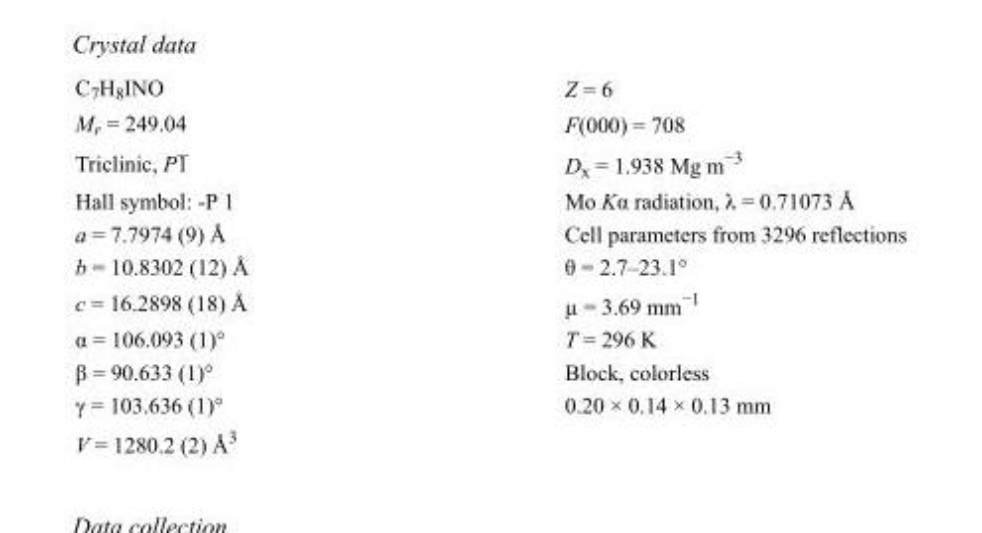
<table><tbody><tr><td>C<sub>7</sub>H<sub>8</sub>INO</td><td>Z = 6</td></tr><tr><td>M<sub>r</sub> = 249.04</td><td>F(000) = 708</td></tr><tr><td>Triclinic, P1</td><td>D<sub>x</sub> = 1.938 Mg m<sup>−3</sup></td></tr><tr><td>Hall symbol: -P 1</td><td>Mo Kα radiation, λ = 0.71073 Å</td></tr><tr><td>a = 7.7974 (9) Å</td><td>Cell parameters from 3296 reflections</td></tr><tr><td>b = 10.8302 (12) Å</td><td>θ = 2.7–23.1°</td></tr><tr><td>c = 16.2898 (18) Å</td><td>µ = 3.69 mm<sup>−1</sup></td></tr><tr><td>α = 106.093 (1)°</td><td>T = 296 K</td></tr><tr><td>β = 90.633 (1)°</td><td>Block, colorless</td></tr><tr><td>γ = 103.636 (1)°</td><td>0.20 × 0.14 × 0.13 mm</td></tr><tr><td>V = 1280.2 (2) Å<sup>3</sup></td><td></td></tr></tbody></table>